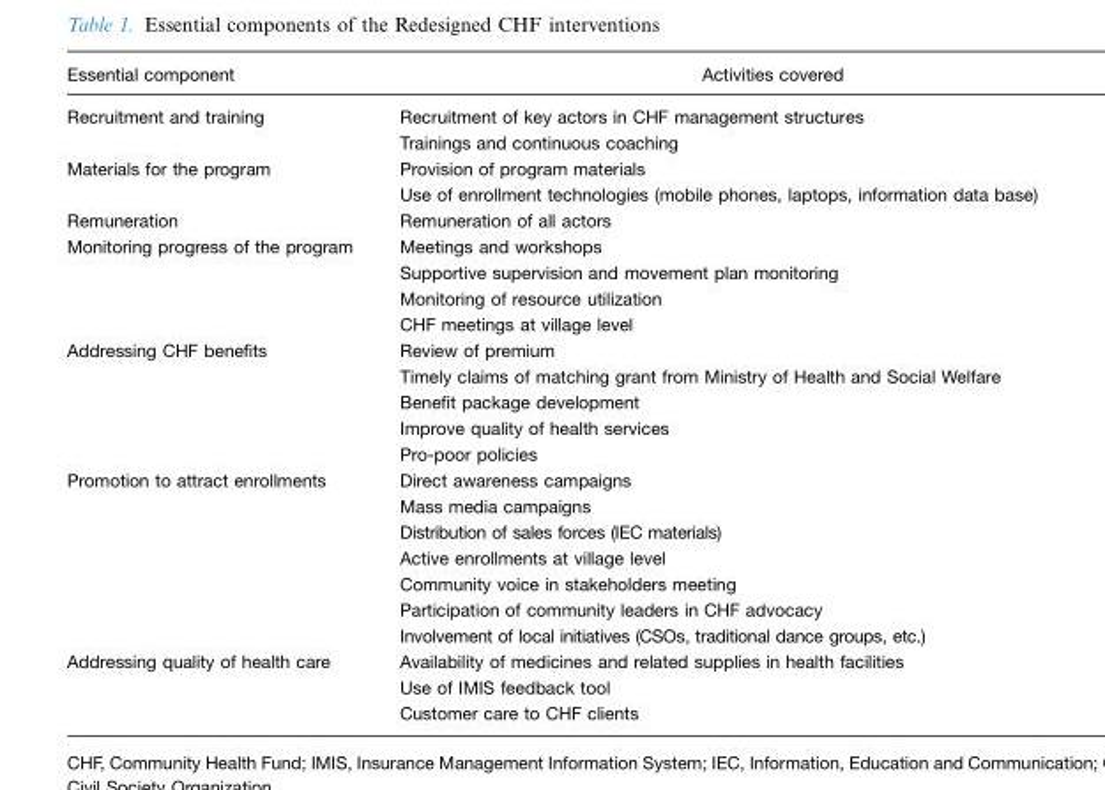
<table><thead><tr><td>Essential component</td><td>Activities covered</td></tr></thead><tbody><tr><td rowspan="2">Recruitment and training</td><td>Recruitment of key actors in CHF management structures</td></tr><tr><td>Trainings and continuous coaching</td></tr><tr><td rowspan="2">Materials for the program</td><td>Provision of program materials</td></tr><tr><td>Use of enrollment technologies (mobile phones, laptops, information data base)</td></tr><tr><td>Remuneration</td><td>Remuneration of all actors</td></tr><tr><td rowspan="4">Monitoring progress of the program</td><td>Meetings and workshops</td></tr><tr><td>Supportive supervision and movement plan monitoring</td></tr><tr><td>Monitoring of resource utilization</td></tr><tr><td>CHF meetings at village level</td></tr><tr><td rowspan="5">Addressing CHF benefits</td><td>Review of premium</td></tr><tr><td>Timely claims of matching grant from Ministry of Health and Social Welfare</td></tr><tr><td>Benefit package development</td></tr><tr><td>Improve quality of health services</td></tr><tr><td>Pro-poor policies</td></tr><tr><td rowspan="7">Promotion to attract enrollments</td><td>Direct awareness campaigns</td></tr><tr><td>Mass media campaigns</td></tr><tr><td>Distribution of sales forces (IEC materials)</td></tr><tr><td>Active enrollments at village level</td></tr><tr><td>Community voice in stakeholders meeting</td></tr><tr><td>Participation of community leaders in CHF advocacy</td></tr><tr><td>Involvement of local initiatives (CSOs, traditional dance groups, etc.)</td></tr><tr><td rowspan="3">Addressing quality of health care</td><td>Availability of medicines and related supplies in health facilities</td></tr><tr><td>Use of IMIS feedback tool</td></tr><tr><td>Customer care to CHF clients</td></tr></tbody></table>